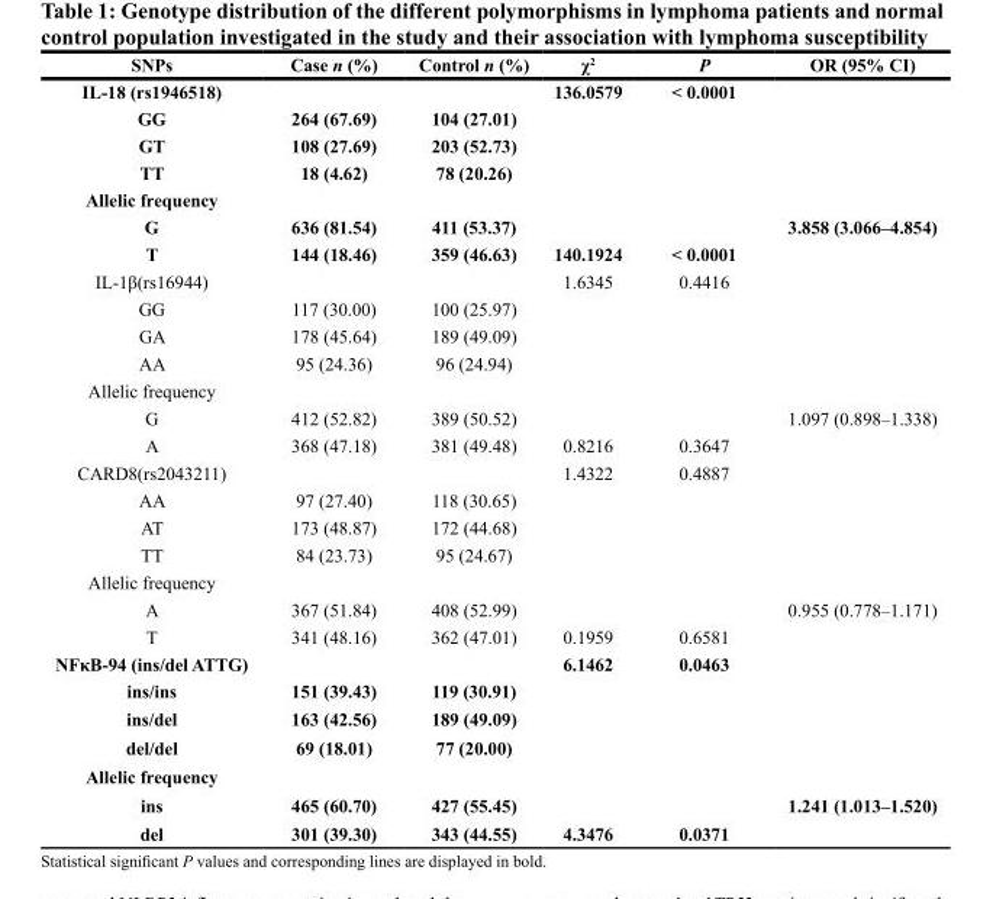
<table><thead><tr><td>SNPs</td><td>Case n (%)</td><td>Control n (%)</td><td>χ<sup>2</sup></td><td>P</td><td>OR (95% CI)</td></tr></thead><tbody><tr><td>IL-18 (rs1946518)</td><td></td><td></td><td>136.0579</td><td>&lt; 0.0001</td><td></td></tr><tr><td>GG</td><td>264 (67.69)</td><td>104 (27.01)</td><td></td><td></td><td></td></tr><tr><td>GT</td><td>108 (27.69)</td><td>203 (52.73)</td><td></td><td></td><td></td></tr><tr><td>TT</td><td>18 (4.62)</td><td>78 (20.26)</td><td></td><td></td><td></td></tr><tr><td colspan="6">Allelic frequency</td></tr><tr><td>G</td><td>636 (81.54)</td><td>411 (53.37)</td><td></td><td></td><td>3.858 (3.066–4.854)</td></tr><tr><td>T</td><td>144 (18.46)</td><td>359 (46.63)</td><td>140.1924</td><td>&lt; 0.0001</td><td></td></tr><tr><td>IL-1β(rs16944)</td><td></td><td></td><td>1.6345</td><td>0.4416</td><td></td></tr><tr><td>GG</td><td>117 (30.00)</td><td>100 (25.97)</td><td></td><td></td><td></td></tr><tr><td>GA</td><td>178 (45.64)</td><td>189 (49.09)</td><td></td><td></td><td></td></tr><tr><td>AA</td><td>95 (24.36)</td><td>96 (24.94)</td><td></td><td></td><td></td></tr><tr><td colspan="6">Allelic frequency</td></tr><tr><td>G</td><td>412 (52.82)</td><td>389 (50.52)</td><td></td><td></td><td>1.097 (0.898–1.338)</td></tr><tr><td>A</td><td>368 (47.18)</td><td>381 (49.48)</td><td>0.8216</td><td>0.3647</td><td></td></tr><tr><td>CARD8(rs2043211)</td><td></td><td></td><td>1.4322</td><td>0.4887</td><td></td></tr><tr><td>AA</td><td>97 (27.40)</td><td>118 (30.65)</td><td></td><td></td><td></td></tr><tr><td>AT</td><td>173 (48.87)</td><td>172 (44.68)</td><td></td><td></td><td></td></tr><tr><td>TT</td><td>84 (23.73)</td><td>95 (24.67)</td><td></td><td></td><td></td></tr><tr><td colspan="6">Allelic frequency</td></tr><tr><td>A</td><td>367 (51.84)</td><td>408 (52.99)</td><td></td><td></td><td>0.955 (0.778–1.171)</td></tr><tr><td>T</td><td>341 (48.16)</td><td>362 (47.01)</td><td>0.1959</td><td>0.6581</td><td></td></tr><tr><td>NFκB-94 (ins/del ATTG)</td><td></td><td></td><td>6.1462</td><td>0.0463</td><td></td></tr><tr><td>ins/ins</td><td>151 (39.43)</td><td>119 (30.91)</td><td></td><td></td><td></td></tr><tr><td>ins/del</td><td>163 (42.56)</td><td>189 (49.09)</td><td></td><td></td><td></td></tr><tr><td>del/del</td><td>69 (18.01)</td><td>77 (20.00)</td><td></td><td></td><td></td></tr><tr><td colspan="6">Allelic frequency</td></tr><tr><td>ins</td><td>465 (60.70)</td><td>427 (55.45)</td><td></td><td></td><td>1.241 (1.013–1.520)</td></tr><tr><td>del</td><td>301 (39.30)</td><td>343 (44.55)</td><td>4.3476</td><td>0.0371</td><td></td></tr></tbody></table>